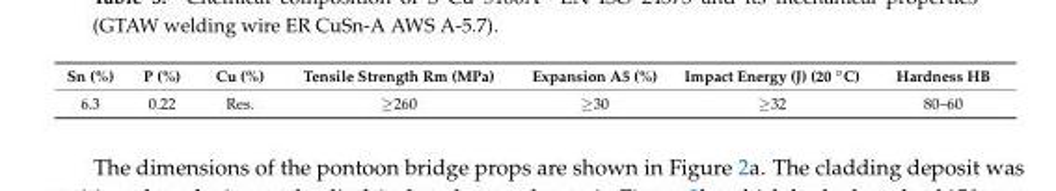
<table><thead><tr><td>Sn (%)</td><td>P (%)</td><td>Cu (%)</td><td>Tensile Strength Rm (MPa)</td><td>Expansion A5 (%)</td><td>Impact Energy (J) (20 ◦C)</td><td>Hardness HB</td></tr></thead><tbody><tr><td>6.3</td><td>0.22</td><td>Res.</td><td>≥260</td><td>≥30</td><td>≥32</td><td>80–60</td></tr></tbody></table>